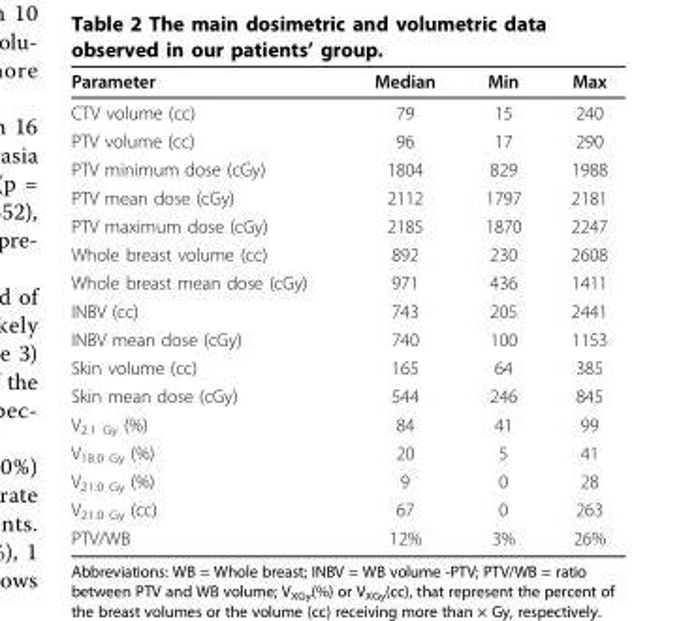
<table><thead><tr><td>Parameter</td><td>Median</td><td>Min</td><td>Max</td></tr></thead><tbody><tr><td>CTV volume (cc)</td><td>79</td><td>15</td><td>240</td></tr><tr><td>PTV volume (cc)</td><td>96</td><td>17</td><td>290</td></tr><tr><td>PTV minimum dose (cGy)</td><td>1804</td><td>829</td><td>1988</td></tr><tr><td>PTV mean dose (cGy)</td><td>2112</td><td>1797</td><td>2181</td></tr><tr><td>PTV maximum dose (cGy)</td><td>2185</td><td>1870</td><td>2247</td></tr><tr><td>Whole breast volume (cc)</td><td>892</td><td>230</td><td>2608</td></tr><tr><td>Whole breast mean dose (cGy)</td><td>971</td><td>436</td><td>1411</td></tr><tr><td>INBV (cc)</td><td>743</td><td>205</td><td>2441</td></tr><tr><td>INBV mean dose (cGy)</td><td>740</td><td>100</td><td>1153</td></tr><tr><td>Skin volume (cc)</td><td>165</td><td>64</td><td>385</td></tr><tr><td>Skin mean dose (cGy)</td><td>544</td><td>246</td><td>845</td></tr><tr><td>V<sub>2.1 Gy</sub> (%)</td><td>84</td><td>41</td><td>99</td></tr><tr><td>V<sub>18.0 Gy</sub> (%)</td><td>20</td><td>5</td><td>41</td></tr><tr><td>V<sub>21.0 Gy</sub> (%)</td><td>9</td><td>0</td><td>28</td></tr><tr><td>V<sub>21.0 Gy</sub> (cc)</td><td>67</td><td>0</td><td>263</td></tr><tr><td>PTV/WB</td><td>12%</td><td>3%</td><td>26%</td></tr></tbody></table>